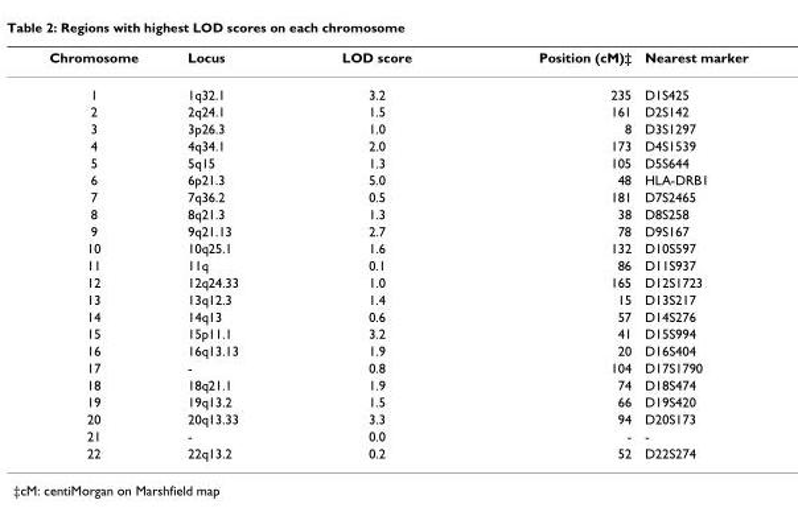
<table><thead><tr><td>Chromosome</td><td>Locus</td><td>LOD score</td><td>Position (cM)‡</td><td>Nearest marker</td></tr></thead><tbody><tr><td>1</td><td>1q32.1</td><td>3.2</td><td>235</td><td>D1S425</td></tr><tr><td>2</td><td>2q24.1</td><td>1.5</td><td>161</td><td>D2S142</td></tr><tr><td>3</td><td>3p26.3</td><td>1.0</td><td>8</td><td>D3S1297</td></tr><tr><td>4</td><td>4q34.1</td><td>2.0</td><td>173</td><td>D4S1539</td></tr><tr><td>5</td><td>5q15</td><td>1.3</td><td>105</td><td>D5S644</td></tr><tr><td>6</td><td>6p21.3</td><td>5.0</td><td>48</td><td>HLA-DRB1</td></tr><tr><td>7</td><td>7q36.2</td><td>0.5</td><td>181</td><td>D7S2465</td></tr><tr><td>8</td><td>8q21.3</td><td>1.3</td><td>38</td><td>D8S258</td></tr><tr><td>9</td><td>9q21.13</td><td>2.7</td><td>78</td><td>D9S167</td></tr><tr><td>10</td><td>10q25.1</td><td>1.6</td><td>132</td><td>D10S597</td></tr><tr><td>11</td><td>11q</td><td>0.1</td><td>86</td><td>D11S937</td></tr><tr><td>12</td><td>12q24.33</td><td>1.0</td><td>165</td><td>D12S1723</td></tr><tr><td>13</td><td>13q12.3</td><td>1.4</td><td>15</td><td>D13S217</td></tr><tr><td>14</td><td>14q13</td><td>0.6</td><td>57</td><td>D14S276</td></tr><tr><td>15</td><td>15p11.1</td><td>3.2</td><td>41</td><td>D15S994</td></tr><tr><td>16</td><td>16q13.13</td><td>1.9</td><td>20</td><td>D16S404</td></tr><tr><td>17</td><td>-</td><td>0.8</td><td>104</td><td>D17S1790</td></tr><tr><td>18</td><td>18q21.1</td><td>1.9</td><td>74</td><td>D18S474</td></tr><tr><td>19</td><td>19q13.2</td><td>1.5</td><td>66</td><td>D19S420</td></tr><tr><td>20</td><td>20q13.33</td><td>3.3</td><td>94</td><td>D20S173</td></tr><tr><td>21</td><td>-</td><td>0.0</td><td>-</td><td>-</td></tr><tr><td>22</td><td>22q13.2</td><td>0.2</td><td>52</td><td>D22S274</td></tr></tbody></table>